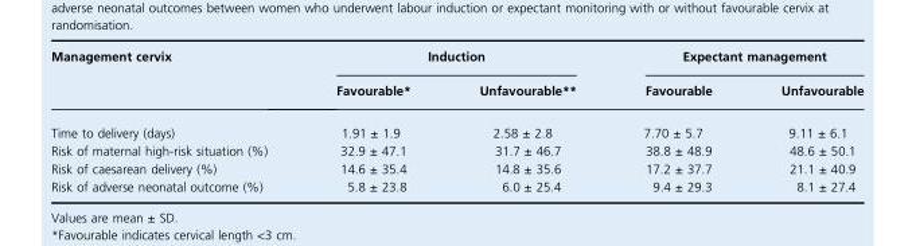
<table><thead><tr><td rowspan="2">Management cervix</td><td colspan="2">Induction</td><td colspan="2">Expectant management</td></tr><tr><td>Favourable*</td><td>Unfavourable**</td><td>Favourable</td><td>Unfavourable</td></tr></thead><tbody><tr><td>Time to delivery (days)</td><td>1.91 ± 1.9</td><td>2.58 ± 2.8</td><td>7.70 ± 5.7</td><td>9.11 ± 6.1</td></tr><tr><td>Risk of maternal high-risk situation (%)</td><td>32.9 ± 47.1</td><td>31.7 ± 46.7</td><td>38.8 ± 48.9</td><td>48.6 ± 50.1</td></tr><tr><td>Risk of caesarean delivery (%)</td><td>14.6 ± 35.4</td><td>14.8 ± 35.6</td><td>17.2 ± 37.7</td><td>21.1 ± 40.9</td></tr><tr><td>Risk of adverse neonatal outcome (%)</td><td>5.8 ± 23.8</td><td>6.0 ± 25.4</td><td>9.4 ± 29.3</td><td>8.1 ± 27.4</td></tr></tbody></table>